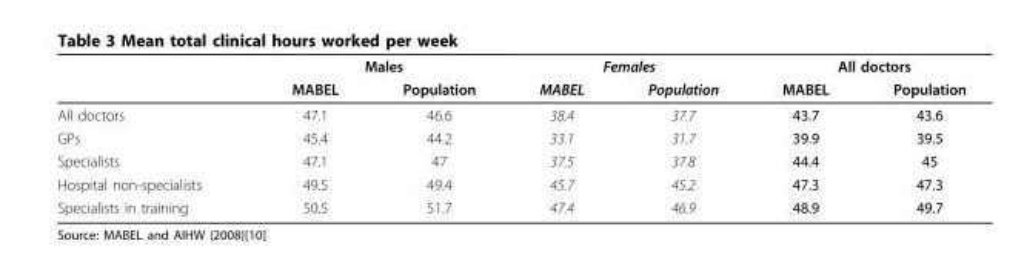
<table><thead><tr><td rowspan="2"></td><td colspan="2">Males</td><td colspan="2">Females</td><td colspan="2">All doctors</td></tr><tr><td>MABEL</td><td>Population</td><td>MABEL</td><td>Population</td><td>MABEL</td><td>Population</td></tr></thead><tbody><tr><td>All doctors</td><td>47.1</td><td>46.6</td><td>38.4</td><td>37.7</td><td>43.7</td><td>43.6</td></tr><tr><td>GPs</td><td>45.4</td><td>44.2</td><td>33.1</td><td>31.7</td><td>39.9</td><td>39.5</td></tr><tr><td>Specialists</td><td>47.1</td><td>47</td><td>37.5</td><td>37.8</td><td>44.4</td><td>45</td></tr><tr><td>Hospital non-specialists</td><td>49.5</td><td>49.4</td><td>45.7</td><td>45.2</td><td>47.3</td><td>47.3</td></tr><tr><td>Specialists in training</td><td>50.5</td><td>51.7</td><td>47.4</td><td>46.9</td><td>48.9</td><td>49.7</td></tr></tbody></table>